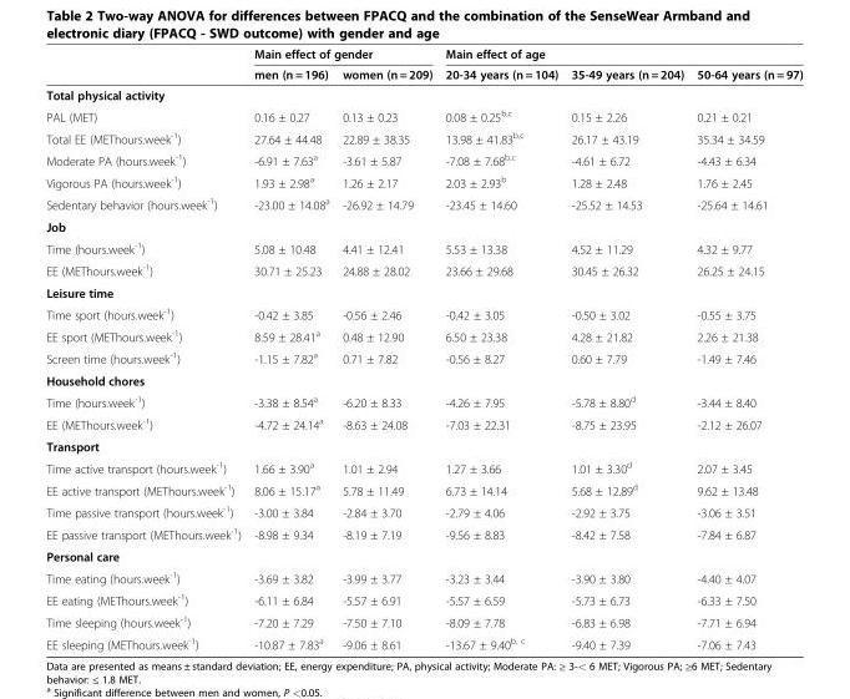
<table><thead><tr><td rowspan="2"></td><td colspan="2">Main effect of gender</td><td colspan="3">Main effect of age</td></tr><tr><td>men (n = 196)</td><td>women (n = 209)</td><td>20-34 years (n = 104)</td><td>35-49 years (n = 204)</td><td>50-64 years (n = 97)</td></tr></thead><tbody><tr><td colspan="6">Total physical activity</td></tr><tr><td>PAL (MET)</td><td>0.16 ± 0.27</td><td>0.13 ± 0.23</td><td>0.08 ± 0.25<sup>b,c</sup></td><td>0.15 ± 2.26</td><td>0.21 ± 0.21</td></tr><tr><td>Total EE (METhours.week<sup>-1</sup>)</td><td>27.64 ± 44.48</td><td>22.89 ± 38.35</td><td>13.98 ± 41.83<sup>b,c</sup></td><td>26.17 ± 43.19</td><td>35.34 ± 34.59</td></tr><tr><td>Moderate PA (hours.week<sup>-1</sup>)</td><td>-6.91 ± 7.63<sup>a</sup></td><td>-3.61 ± 5.87</td><td>-7.08 ± 7.68<sup>b,c</sup></td><td>-4.61 ± 6.72</td><td>-4.43 ± 6.34</td></tr><tr><td>Vigorous PA (hours.week<sup>-1</sup>)</td><td>1.93 ± 2.98<sup>a</sup></td><td>1.26 ± 2.17</td><td>2.03 ± 2.93<sup>b</sup></td><td>1.28 ± 2.48</td><td>1.76 ± 2.45</td></tr><tr><td>Sedentary behavior (hours.week<sup>-1</sup>)</td><td>-23.00 ± 14.08<sup>a</sup></td><td>-26.92 ± 14.79</td><td>-23.45 ± 14.60</td><td>-25.52 ± 14.53</td><td>-25.64 ± 14.61</td></tr><tr><td colspan="6">Job</td></tr><tr><td>Time (hours.week<sup>-1</sup>)</td><td>5.08 ± 10.48</td><td>4.41 ± 12.41</td><td>5.53 ± 13.38</td><td>4.52 ± 11.29</td><td>4.32 ± 9.77</td></tr><tr><td>EE (METhours.week<sup>-1</sup>)</td><td>30.71 ± 25.23</td><td>24.88 ± 28.02</td><td>23.66 ± 29.68</td><td>30.45 ± 26.32</td><td>26.25 ± 24.15</td></tr><tr><td colspan="6">Leisure time</td></tr><tr><td>Time sport (hours.week<sup>-1</sup>)</td><td>-0.42 ± 3.85</td><td>-0.56 ± 2.46</td><td>-0.42 ± 3.05</td><td>-0.50 ± 3.02</td><td>-0.55 ± 3.75</td></tr><tr><td>EE sport (METhours.week<sup>-1</sup>)</td><td>8.59 ± 28.41<sup>a</sup></td><td>0.48 ± 12.90</td><td>6.50 ± 23.38</td><td>4.28 ± 21.82</td><td>2.26 ± 21.38</td></tr><tr><td>Screen time (hours.week<sup>-1</sup>)</td><td>-1.15 ± 7.82<sup>a</sup></td><td>0.71 ± 7.82</td><td>-0.56 ± 8.27</td><td>0.60 ± 7.79</td><td>-1.49 ± 7.46</td></tr><tr><td colspan="6">Household chores</td></tr><tr><td>Time (hours.week<sup>-1</sup>)</td><td>-3.38 ± 8.54<sup>a</sup></td><td>-6.20 ± 8.33</td><td>-4.26 ± 7.95</td><td>-5.78 ± 8.80<sup>d</sup></td><td>-3.44 ± 8.40</td></tr><tr><td>EE (METhours.week<sup>-1</sup>)</td><td>-4.72 ± 24.14<sup>a</sup></td><td>-8.63 ± 24.08</td><td>-7.03 ± 22.31</td><td>-8.75 ± 23.95</td><td>-2.12 ± 26.07</td></tr><tr><td colspan="6">Transport</td></tr><tr><td>Time active transport (hours.week<sup>-1</sup>)</td><td>1.66 ± 3.90<sup>a</sup></td><td>1.01 ± 2.94</td><td>1.27 ± 3.66</td><td>1.01 ± 3.30<sup>d</sup></td><td>2.07 ± 3.45</td></tr><tr><td>EE active transport (METhours.week<sup>-1</sup>)</td><td>8.06 ± 15.17<sup>a</sup></td><td>5.78 ± 11.49</td><td>6.73 ± 14.14</td><td>5.68 ± 12.89<sup>d</sup></td><td>9.62 ± 13.48</td></tr><tr><td>Time passive transport (hours.week<sup>-1</sup>)</td><td>-3.00 ± 3.84</td><td>-2.84 ± 3.70</td><td>-2.79 ± 4.06</td><td>-2.92 ± 3.75</td><td>-3.06 ± 3.51</td></tr><tr><td>EE passive transport (METhours.week<sup>-1</sup>)</td><td>-8.98 ± 9.34</td><td>-8.19 ± 7.19</td><td>-9.56 ± 8.83</td><td>-8.42 ± 7.58</td><td>-7.84 ± 6.87</td></tr><tr><td colspan="6">Personal care</td></tr><tr><td>Time eating (hours.week<sup>-1</sup>)</td><td>-3.69 ± 3.82</td><td>-3.99 ± 3.77</td><td>-3.23 ± 3.44</td><td>-3.90 ± 3.80</td><td>-4.40 ± 4.07</td></tr><tr><td>EE eating (METhours.week<sup>-1</sup>)</td><td>-6.11 ± 6.84</td><td>-5.57 ± 6.91</td><td>-5.57 ± 6.59</td><td>-5.73 ± 6.73</td><td>-6.33 ± 7.50</td></tr><tr><td>Time sleeping (hours.week<sup>-1</sup>)</td><td>-7.20 ± 7.29</td><td>-7.50 ± 7.10</td><td>-8.09 ± 7.78</td><td>-6.83 ± 6.98</td><td>-7.71 ± 6.94</td></tr><tr><td>EE sleeping (METhours.week<sup>-1</sup>)</td><td>-10.87 ± 7.83<sup>a</sup></td><td>-9.06 ± 8.61</td><td>-13.67 ± 9.40<sup>b, c</sup></td><td>-9.40 ± 7.39</td><td>-7.06 ± 7.43</td></tr></tbody></table>